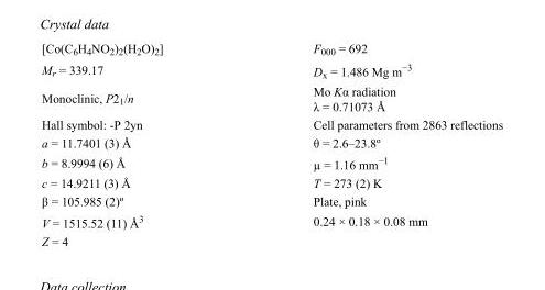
<table><tbody><tr><td>[Co(C6H4NO2)2(H2O)2]</td><td>F000 = 692</td></tr><tr><td>Mr = 339.17</td><td>Dx = 1.486 Mg m−3</td></tr><tr><td>Monoclinic, P21/n</td><td>Mo Kα radiation λ = 0.71073 Å</td></tr><tr><td>Hall symbol: -P 2yn</td><td>Cell parameters from 2863 reflections</td></tr><tr><td>a = 11.7401 (3) Å</td><td>θ = 2.6–23.8º</td></tr><tr><td>b = 8.9994 (6) Å</td><td>µ = 1.16 mm−1</td></tr><tr><td>c = 14.9211 (3) Å</td><td>T = 273 (2) K</td></tr><tr><td>β = 105.985 (2)º</td><td>Plate, pink</td></tr><tr><td>V = 1515.52 (11) Å3</td><td>0.24 × 0.18 × 0.08 mm</td></tr><tr><td>Z = 4</td><td></td></tr></tbody></table>